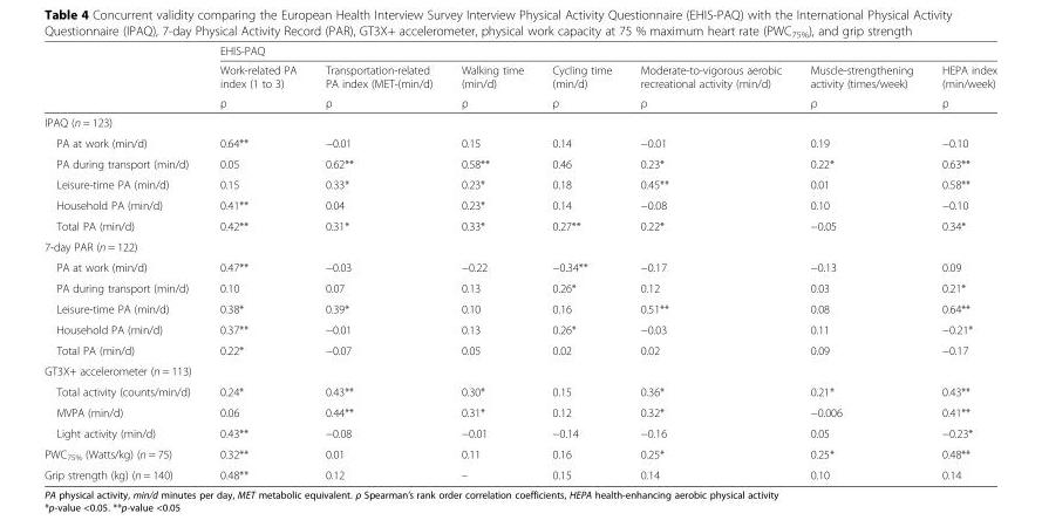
<table><thead><tr><td rowspan="3"></td><td colspan="7">EHIS-PAQ</td></tr><tr><td rowspan="2">Work-related PA index (1 to 3) ρ</td><td rowspan="2">Transportation-related PA index (MET-(min/d) ρ</td><td rowspan="2">Walking time (min/d) ρ</td><td rowspan="2">Cycling time (min/d) ρ</td><td rowspan="2">Moderate-to-vigorous aerobic recreational activity (min/d) ρ</td><td rowspan="2">Muscle-strengthening activity (times/week) ρ</td><td rowspan="2">HEPA index (min/week) ρ</td></tr><tr></tr></thead><tbody><tr><td colspan="8">IPAQ (n = 123)</td></tr><tr><td>PA at work (min/d)</td><td>0.64**</td><td>−0.01</td><td>0.15</td><td>0.14</td><td>−0.01</td><td>0.19</td><td>−0.10</td></tr><tr><td>PA during transport (min/d)</td><td>0.05</td><td>0.62**</td><td>0.58**</td><td>0.46</td><td>0.23*</td><td>0.22*</td><td>0.63**</td></tr><tr><td>Leisure-time PA (min/d)</td><td>0.15</td><td>0.33*</td><td>0.23*</td><td>0.18</td><td>0.45**</td><td>0.01</td><td>0.58**</td></tr><tr><td>Household PA (min/d)</td><td>0.41**</td><td>0.04</td><td>0.23*</td><td>0.14</td><td>−0.08</td><td>0.10</td><td>−0.10</td></tr><tr><td>Total PA (min/d)</td><td>0.42**</td><td>0.31*</td><td>0.33*</td><td>0.27**</td><td>0.22*</td><td>−0.05</td><td>0.34*</td></tr><tr><td colspan="8">7-day PAR (n = 122)</td></tr><tr><td>PA at work (min/d)</td><td>0.47**</td><td>−0.03</td><td>−0.22</td><td>−0.34**</td><td>−0.17</td><td>−0.13</td><td>0.09</td></tr><tr><td>PA during transport (min/d)</td><td>0.10</td><td>0.07</td><td>0.13</td><td>0.26*</td><td>0.12</td><td>0.03</td><td>0.21*</td></tr><tr><td>Leisure-time PA (min/d)</td><td>0.38*</td><td>0.39*</td><td>0.10</td><td>0.16</td><td>0.51**</td><td>0.08</td><td>0.64**</td></tr><tr><td>Household PA (min/d)</td><td>0.37**</td><td>−0.01</td><td>0.13</td><td>0.26*</td><td>−0.03</td><td>0.11</td><td>−0.21*</td></tr><tr><td>Total PA (min/d)</td><td>0.22*</td><td>−0.07</td><td>0.05</td><td>0.02</td><td>0.02</td><td>0.09</td><td>−0.17</td></tr><tr><td colspan="8">GT3X+ accelerometer (n = 113)</td></tr><tr><td>Total activity (counts/min/d)</td><td>0.24*</td><td>0.43**</td><td>0.30*</td><td>0.15</td><td>0.36*</td><td>0.21*</td><td>0.43**</td></tr><tr><td>MVPA (min/d)</td><td>0.06</td><td>0.44**</td><td>0.31*</td><td>0.12</td><td>0.32*</td><td>−0.006</td><td>0.41**</td></tr><tr><td>Light activity (min/d)</td><td>0.43**</td><td>−0.08</td><td>−0.01</td><td>−0.14</td><td>−0.16</td><td>0.05</td><td>−0.23*</td></tr><tr><td>PWC<sub>75%</sub> (Watts/kg) (n = 75)</td><td>0.32**</td><td>0.01</td><td>0.11</td><td>0.16</td><td>0.25*</td><td>0.25*</td><td>0.48**</td></tr><tr><td>Grip strength (kg) (n = 140)</td><td>0.48**</td><td>0.12</td><td>–</td><td>0.15</td><td>0.14</td><td>0.10</td><td>0.14</td></tr></tbody></table>